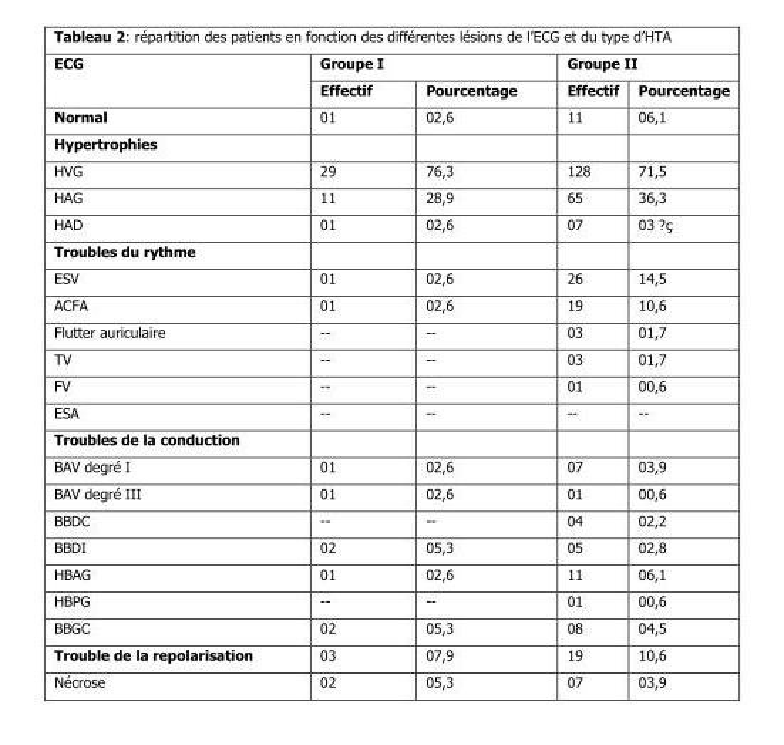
<table><thead><tr><td rowspan="2">ECG</td><td colspan="2">Groupe I</td><td colspan="2">Groupe II</td></tr><tr><td>Effectif</td><td>Pourcentage</td><td>Effectif</td><td>Pourcentage</td></tr></thead><tbody><tr><td>Normal</td><td>01</td><td>02,6</td><td>11</td><td>06,1</td></tr><tr><td colspan="5">Hypertrophies</td></tr><tr><td>HVG</td><td>29</td><td>76,3</td><td>128</td><td>71,5</td></tr><tr><td>HAG</td><td>11</td><td>28,9</td><td>65</td><td>36,3</td></tr><tr><td>HAD</td><td>01</td><td>02,6</td><td>07</td><td>03 ?ç</td></tr><tr><td colspan="5">Troubles du rythme</td></tr><tr><td>ESV</td><td>01</td><td>02,6</td><td>26</td><td>14,5</td></tr><tr><td>ACFA</td><td>01</td><td>02,6</td><td>19</td><td>10,6</td></tr><tr><td>Flutter auriculaire</td><td>--</td><td>--</td><td>03</td><td>01,7</td></tr><tr><td>TV</td><td>--</td><td>--</td><td>03</td><td>01,7</td></tr><tr><td>FV</td><td>--</td><td>--</td><td>01</td><td>00,6</td></tr><tr><td>ESA</td><td>--</td><td>--</td><td>--</td><td>--</td></tr><tr><td colspan="5">Troubles de la conduction</td></tr><tr><td>BAV degré I</td><td>01</td><td>02,6</td><td>07</td><td>03,9</td></tr><tr><td>BAV degré III</td><td>01</td><td>02,6</td><td>01</td><td>00,6</td></tr><tr><td>BBDC</td><td>--</td><td>--</td><td>04</td><td>02,2</td></tr><tr><td>BBDI</td><td>02</td><td>05,3</td><td>05</td><td>02,8</td></tr><tr><td>HBAG</td><td>01</td><td>02,6</td><td>11</td><td>06,1</td></tr><tr><td>HBPG</td><td>--</td><td>--</td><td>01</td><td>00,6</td></tr><tr><td>BBGC</td><td>02</td><td>05,3</td><td>08</td><td>04,5</td></tr><tr><td>Trouble de la repolarisation</td><td>03</td><td>07,9</td><td>19</td><td>10,6</td></tr><tr><td>Nécrose</td><td>02</td><td>05,3</td><td>07</td><td>03,9</td></tr></tbody></table>